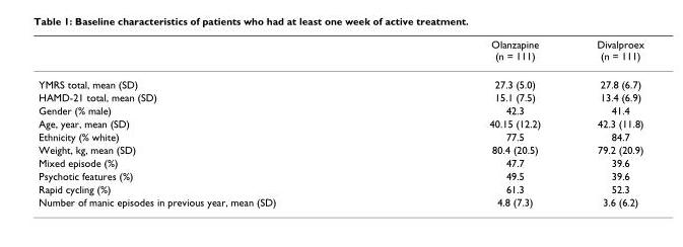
<table><thead><tr><td></td><td>Olanzapine (n = 111)</td><td>Divalproex (n = 111)</td></tr></thead><tbody><tr><td>YMRS total, mean (SD)</td><td>27.3 (5.0)</td><td>27.8 (6.7)</td></tr><tr><td>HAMD-21 total, mean (SD)</td><td>15.1 (7.5)</td><td>13.4 (6.9)</td></tr><tr><td>Gender (% male)</td><td>42.3</td><td>41.4</td></tr><tr><td>Age, year, mean (SD)</td><td>40.15 (12.2)</td><td>42.3 (11.8)</td></tr><tr><td>Ethnicity (% white)</td><td>77.5</td><td>84.7</td></tr><tr><td>Weight, kg, mean (SD)</td><td>80.4 (20.5)</td><td>79.2 (20.9)</td></tr><tr><td>Mixed episode (%)</td><td>47.7</td><td>39.6</td></tr><tr><td>Psychotic features (%)</td><td>49.5</td><td>39.6</td></tr><tr><td>Rapid cycling (%)</td><td>61.3</td><td>52.3</td></tr><tr><td>Number of manic episodes in previous year, mean (SD)</td><td>4.8 (7.3)</td><td>3.6 (6.2)</td></tr></tbody></table>